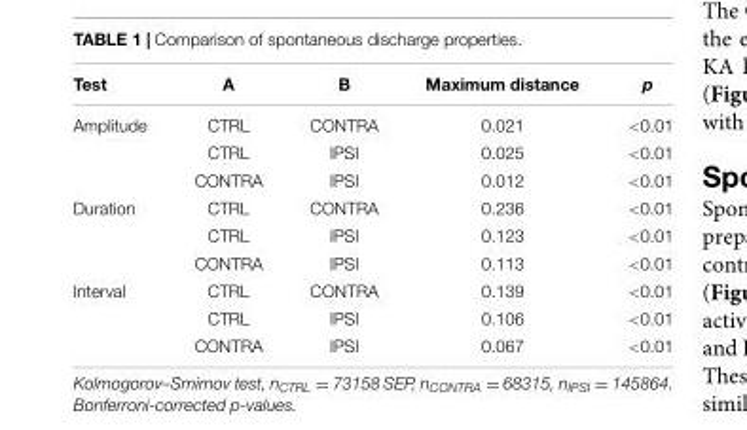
<table><thead><tr><td>Test</td><td>A</td><td>B</td><td>Maximum distance</td><td>p</td></tr></thead><tbody><tr><td rowspan="3">Amplitude</td><td>CTRL</td><td>CONTRA</td><td>0.021</td><td>&lt;0.01</td></tr><tr><td>CTRL</td><td>IPSI</td><td>0.025</td><td>&lt;0.01</td></tr><tr><td>CONTRA</td><td>IPSI</td><td>0.012</td><td>&lt;0.01</td></tr><tr><td rowspan="3">Duration</td><td>CTRL</td><td>CONTRA</td><td>0.236</td><td>&lt;0.01</td></tr><tr><td>CTRL</td><td>IPSI</td><td>0.123</td><td>&lt;0.01</td></tr><tr><td>CONTRA</td><td>IPSI</td><td>0.113</td><td>&lt;0.01</td></tr><tr><td rowspan="3">Interval</td><td>CTRL</td><td>CONTRA</td><td>0.139</td><td>&lt;0.01</td></tr><tr><td>CTRL</td><td>IPSI</td><td>0.106</td><td>&lt;0.01</td></tr><tr><td>CONTRA</td><td>IPSI</td><td>0.067</td><td>&lt;0.01</td></tr></tbody></table>